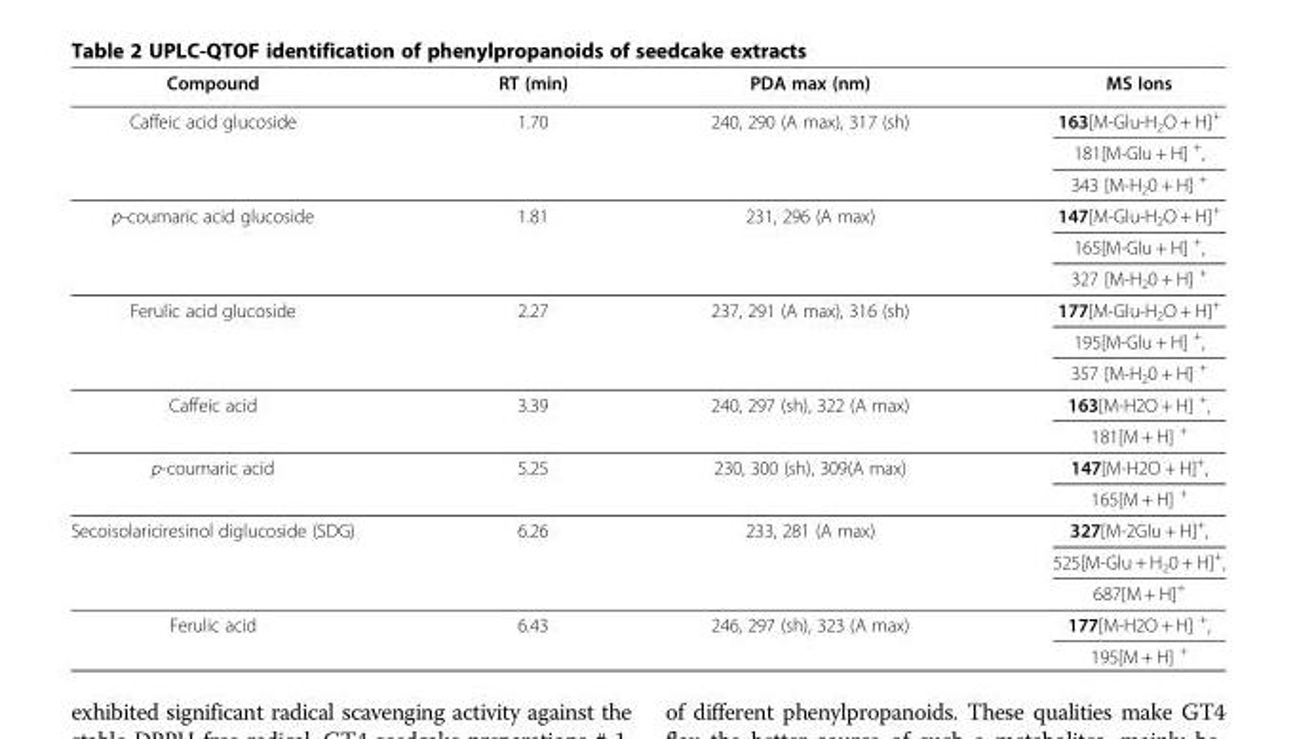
<table><thead><tr><td>Compound</td><td>RT (min)</td><td>PDA max (nm)</td><td>MS Ions</td></tr></thead><tbody><tr><td rowspan="3">Caffeic acid glucoside</td><td rowspan="3">1.70</td><td rowspan="3">240, 290 (A max), 317 (sh)</td><td>163[M-Glu-H<sub>2</sub>O + H]<sup>+</sup></td></tr><tr><td>181[M-Glu + H] <sup>+</sup>,</td></tr><tr><td>343 [M-H<sub>2</sub>0 + H] <sup>+</sup></td></tr><tr><td rowspan="3">p-coumaric acid glucoside</td><td rowspan="3">1.81</td><td rowspan="3">231, 296 (A max)</td><td>147[M-Glu-H<sub>2</sub>O + H]<sup>+</sup></td></tr><tr><td>165[M-Glu + H] <sup>+</sup>,</td></tr><tr><td>327 [M-H<sub>2</sub>0 + H] <sup>+</sup></td></tr><tr><td rowspan="3">Ferulic acid glucoside</td><td rowspan="3">2.27</td><td rowspan="3">237, 291 (A max), 316 (sh)</td><td>177[M-Glu-H<sub>2</sub>O + H]<sup>+</sup></td></tr><tr><td>195[M-Glu + H] <sup>+</sup>,</td></tr><tr><td>357 [M-H<sub>2</sub>0 + H] <sup>+</sup></td></tr><tr><td rowspan="2">Caffeic acid</td><td rowspan="2">3.39</td><td rowspan="2">240, 297 (sh), 322 (A max)</td><td>163[M-H2O + H] <sup>+</sup>,</td></tr><tr><td>181[M + H] <sup>+</sup></td></tr><tr><td rowspan="2">p-coumaric acid</td><td rowspan="2">5.25</td><td rowspan="2">230, 300 (sh), 309(A max)</td><td>147[M-H2O + H]<sup>+</sup>,</td></tr><tr><td>165[M + H] <sup>+</sup></td></tr><tr><td rowspan="3">Secoisolariciresinol diglucoside (SDG)</td><td rowspan="3">6.26</td><td rowspan="3">233, 281 (A max)</td><td>327[M-2Glu + H]<sup>+</sup>,</td></tr><tr><td>525[M-Glu + H<sub>2</sub>0 + H]<sup>+</sup>,</td></tr><tr><td>687[M + H]<sup>+</sup></td></tr><tr><td rowspan="2">Ferulic acid</td><td rowspan="2">6.43</td><td rowspan="2">246, 297 (sh), 323 (A max)</td><td>177[M-H2O + H] <sup>+</sup>,</td></tr><tr><td>195[M + H] <sup>+</sup></td></tr></tbody></table>